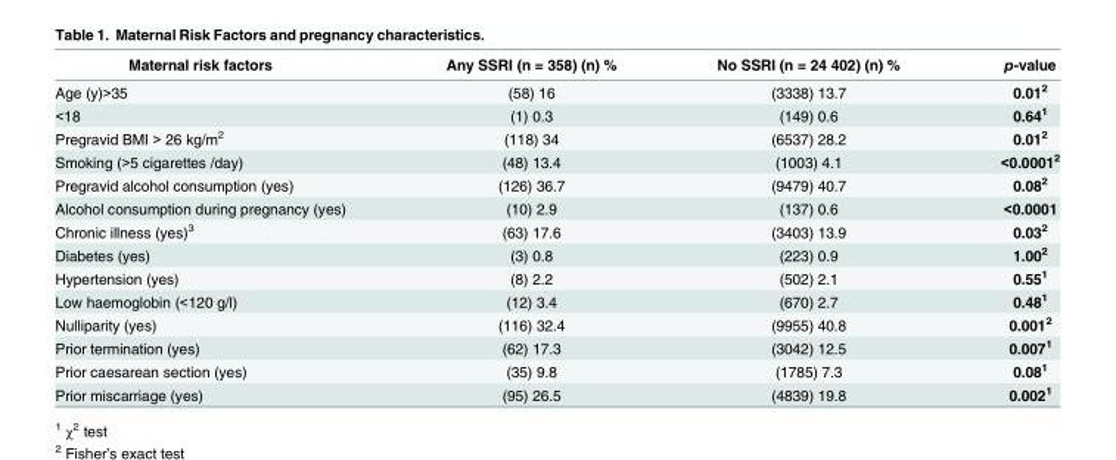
<table><thead><tr><td>Maternal risk factors</td><td>Any SSRI (n = 358) (n) %</td><td>No SSRI (n = 24 402) (n) %</td><td>p-value</td></tr></thead><tbody><tr><td>Age (y)&gt;35</td><td>(58) 16</td><td>(3338) 13.7</td><td>0.01<sup>2</sup></td></tr><tr><td>&lt;18</td><td>(1) 0.3</td><td>(149) 0.6</td><td>0.64<sup>1</sup></td></tr><tr><td>Pregravid BMI &gt; 26 kg/m<sup>2</sup></td><td>(118) 34</td><td>(6537) 28.2</td><td>0.01<sup>2</sup></td></tr><tr><td>Smoking (&gt;5 cigarettes /day)</td><td>(48) 13.4</td><td>(1003) 4.1</td><td>&lt;0.0001<sup>2</sup></td></tr><tr><td>Pregravid alcohol consumption (yes)</td><td>(126) 36.7</td><td>(9479) 40.7</td><td>0.08<sup>2</sup></td></tr><tr><td>Alcohol consumption during pregnancy (yes)</td><td>(10) 2.9</td><td>(137) 0.6</td><td>&lt;0.0001</td></tr><tr><td>Chronic illness (yes)<sup>3</sup></td><td>(63) 17.6</td><td>(3403) 13.9</td><td>0.03<sup>2</sup></td></tr><tr><td>Diabetes (yes)</td><td>(3) 0.8</td><td>(223) 0.9</td><td>1.00<sup>2</sup></td></tr><tr><td>Hypertension (yes)</td><td>(8) 2.2</td><td>(502) 2.1</td><td>0.55<sup>1</sup></td></tr><tr><td>Low haemoglobin (&lt;120 g/l)</td><td>(12) 3.4</td><td>(670) 2.7</td><td>0.48<sup>1</sup></td></tr><tr><td>Nulliparity (yes)</td><td>(116) 32.4</td><td>(9955) 40.8</td><td>0.001<sup>2</sup></td></tr><tr><td>Prior termination (yes)</td><td>(62) 17.3</td><td>(3042) 12.5</td><td>0.007<sup>1</sup></td></tr><tr><td>Prior caesarean section (yes)</td><td>(35) 9.8</td><td>(1785) 7.3</td><td>0.08<sup>1</sup></td></tr><tr><td>Prior miscarriage (yes)</td><td>(95) 26.5</td><td>(4839) 19.8</td><td>0.002<sup>1</sup></td></tr></tbody></table>